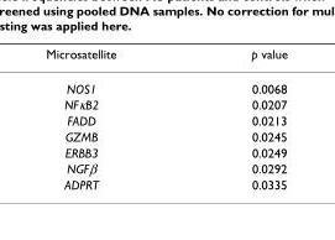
<table><thead><tr><td>Microsatellite</td><td>p value</td></tr></thead><tbody><tr><td>NOS1</td><td>0.0068</td></tr><tr><td>NFκB2</td><td>0.0207</td></tr><tr><td>FADD</td><td>0.0213</td></tr><tr><td>GZMB</td><td>0.0245</td></tr><tr><td>ERBB3</td><td>0.0249</td></tr><tr><td>NGFβ</td><td>0.0292</td></tr><tr><td>ADPRT</td><td>0.0335</td></tr></tbody></table>